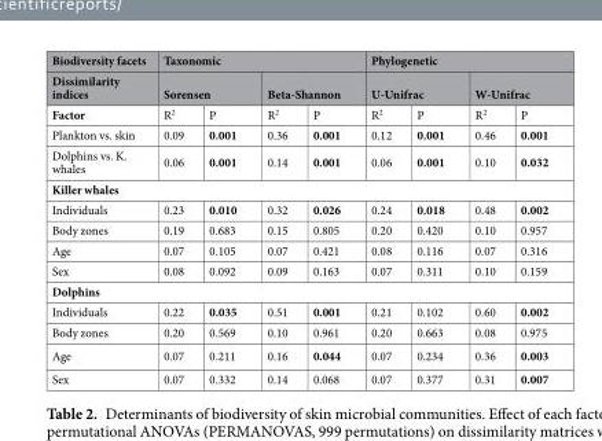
<table><thead><tr><td rowspan="3">Biodiversity facets Dissimilarity indices Factor</td><td colspan="4">Taxonomic</td><td colspan="4">Phylogenetic</td></tr><tr><td colspan="2">Sorensen</td><td colspan="2">Beta-Shannon</td><td colspan="2">U-Unifrac</td><td colspan="2">W-Unifrac</td></tr><tr><td>R<sup>2</sup></td><td>P</td><td>R<sup>2</sup></td><td>P</td><td>R<sup>2</sup></td><td>P</td><td>R<sup>2</sup></td><td>P</td></tr></thead><tbody><tr><td>Plankton vs. skin</td><td>0.09</td><td>0.001</td><td>0.36</td><td>0.001</td><td>0.12</td><td>0.001</td><td>0.46</td><td>0.001</td></tr><tr><td>Dolphins vs. K. whales</td><td>0.06</td><td>0.001</td><td>0.14</td><td>0.001</td><td>0.06</td><td>0.001</td><td>0.10</td><td>0.032</td></tr><tr><td colspan="9">Killer whales</td></tr><tr><td>Individuals</td><td>0.23</td><td>0.010</td><td>0.32</td><td>0.026</td><td>0.24</td><td>0.018</td><td>0.48</td><td>0.002</td></tr><tr><td>Body zones</td><td>0.19</td><td>0.683</td><td>0.15</td><td>0.805</td><td>0.20</td><td>0.420</td><td>0.10</td><td>0.957</td></tr><tr><td>Age</td><td>0.07</td><td>0.105</td><td>0.07</td><td>0.421</td><td>0.08</td><td>0.116</td><td>0.07</td><td>0.316</td></tr><tr><td>Sex</td><td>0.08</td><td>0.092</td><td>0.09</td><td>0.163</td><td>0.07</td><td>0.311</td><td>0.10</td><td>0.159</td></tr><tr><td colspan="9">Dolphins</td></tr><tr><td>Individuals</td><td>0.22</td><td>0.035</td><td>0.51</td><td>0.001</td><td>0.21</td><td>0.102</td><td>0.60</td><td>0.002</td></tr><tr><td>Body zones</td><td>0.20</td><td>0.569</td><td>0.10</td><td>0.961</td><td>0.20</td><td>0.663</td><td>0.08</td><td>0.975</td></tr><tr><td>Age</td><td>0.07</td><td>0.211</td><td>0.16</td><td>0.044</td><td>0.07</td><td>0.234</td><td>0.36</td><td>0.003</td></tr><tr><td>Sex</td><td>0.07</td><td>0.332</td><td>0.14</td><td>0.068</td><td>0.07</td><td>0.377</td><td>0.31</td><td>0.007</td></tr></tbody></table>